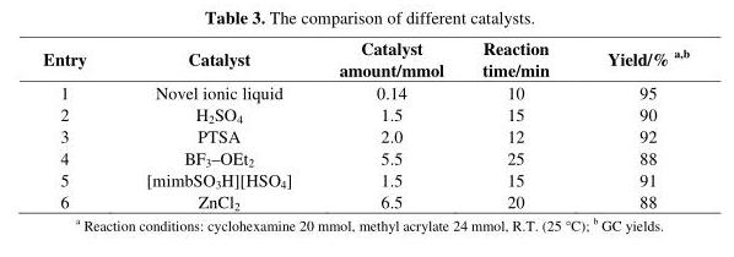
<table><thead><tr><td>Entry</td><td>Catalyst</td><td>Catalyst amount/mmol</td><td>Reaction time/min</td><td>Yield/% a,b</td></tr></thead><tbody><tr><td>1</td><td>Novel ionic liquid</td><td>0.14</td><td>10</td><td>95</td></tr><tr><td>2</td><td>H<sub>2</sub>SO<sub>4</sub></td><td>1.5</td><td>15</td><td>90</td></tr><tr><td>3</td><td>PTSA</td><td>2.0</td><td>12</td><td>92</td></tr><tr><td>4</td><td>BF<sub>3</sub>–OEt<sub>2</sub></td><td>5.5</td><td>25</td><td>88</td></tr><tr><td>5</td><td>[mimbSO<sub>3</sub>H][HSO<sub>4</sub>]</td><td>1.5</td><td>15</td><td>91</td></tr><tr><td>6</td><td>ZnCl<sub>2</sub></td><td>6.5</td><td>20</td><td>88</td></tr></tbody></table>